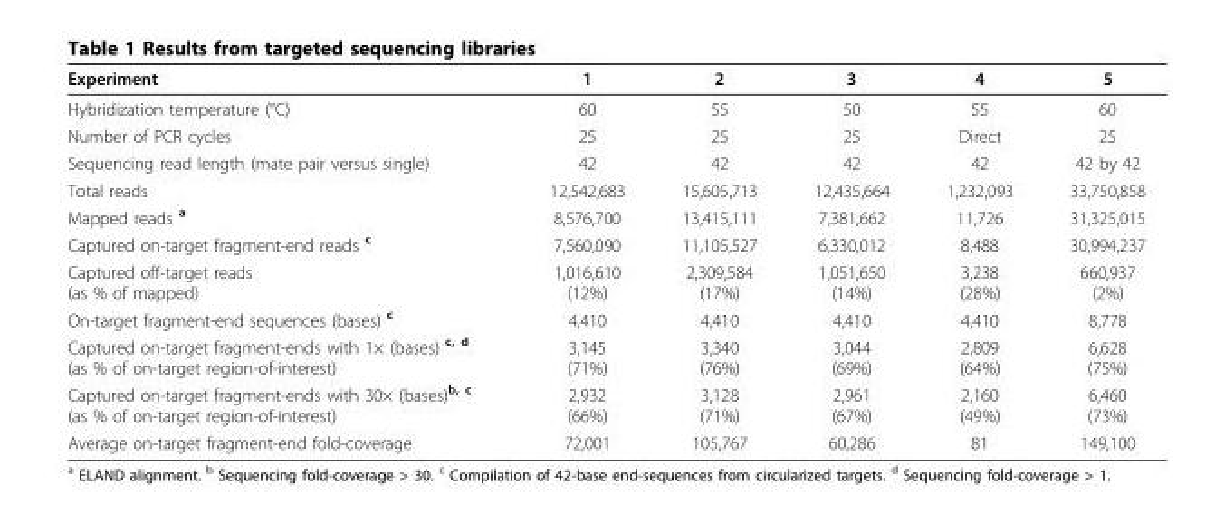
<table><thead><tr><td>Experiment</td><td>1</td><td>2</td><td>3</td><td>4</td><td>5</td></tr></thead><tbody><tr><td>Hybridization temperature (°C)</td><td>60</td><td>55</td><td>50</td><td>55</td><td>60</td></tr><tr><td>Number of PCR cycles</td><td>25</td><td>25</td><td>25</td><td>Direct</td><td>25</td></tr><tr><td>Sequencing read length (mate pair versus single)</td><td>42</td><td>42</td><td>42</td><td>42</td><td>42 by 42</td></tr><tr><td>Total reads</td><td>12,542,683</td><td>15,605,713</td><td>12,435,664</td><td>1,232,093</td><td>33,750,858</td></tr><tr><td>Mapped reads <sup>a</sup></td><td>8,576,700</td><td>13,415,111</td><td>7,381,662</td><td>11,726</td><td>31,325,015</td></tr><tr><td>Captured on-target fragment-end reads <sup>c</sup></td><td>7,560,090</td><td>11,105,527</td><td>6,330,012</td><td>8,488</td><td>30,994,237</td></tr><tr><td>Captured off-target reads (as % of mapped)</td><td>1,016,610 (12%)</td><td>2,309,584 (17%)</td><td>1,051,650 (14%)</td><td>3,238 (28%)</td><td>660,937 (2%)</td></tr><tr><td>On-target fragment-end sequences (bases) <sup>c</sup></td><td>4,410</td><td>4,410</td><td>4,410</td><td>4,410</td><td>8,778</td></tr><tr><td>Captured on-target fragment-ends with 1× (bases) <sup>c, d</sup> (as % of on-target region-of-interest)</td><td>3,145 (71%)</td><td>3,340 (76%)</td><td>3,044 (69%)</td><td>2,809 (64%)</td><td>6,628 (75%)</td></tr><tr><td>Captured on-target fragment-ends with 30× (bases)<sup>b, c</sup> (as % of on-target region-of-interest)</td><td>2,932 (66%)</td><td>3,128 (71%)</td><td>2,961 (67%)</td><td>2,160 (49%)</td><td>6,460 (73%)</td></tr><tr><td>Average on-target fragment-end fold-coverage</td><td>72,001</td><td>105,767</td><td>60,286</td><td>81</td><td>149,100</td></tr></tbody></table>